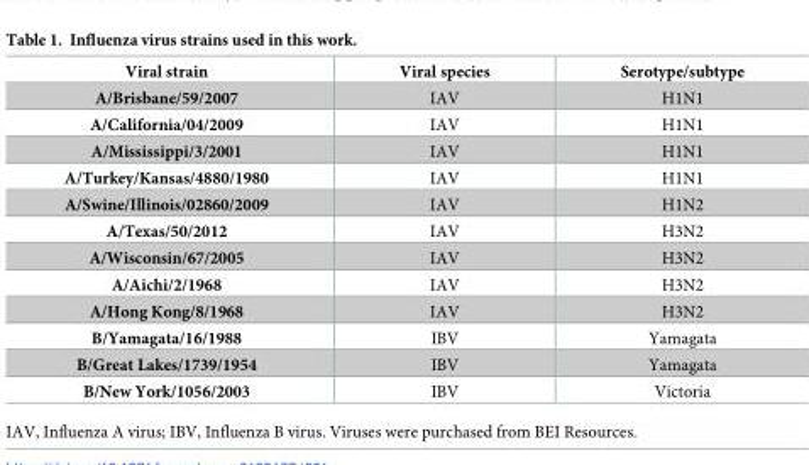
<table><thead><tr><td>Viral strain</td><td>Viral species</td><td>Serotype/subtype</td></tr></thead><tbody><tr><td>A/Brisbane/59/2007</td><td>IAV</td><td>H1N1</td></tr><tr><td>A/California/04/2009</td><td>IAV</td><td>H1N1</td></tr><tr><td>A/Mississippi/3/2001</td><td>IAV</td><td>H1N1</td></tr><tr><td>A/Turkey/Kansas/4880/1980</td><td>IAV</td><td>H1N1</td></tr><tr><td>A/Swine/Illinois/02860/2009</td><td>IAV</td><td>H1N2</td></tr><tr><td>A/Texas/50/2012</td><td>IAV</td><td>H3N2</td></tr><tr><td>A/Wisconsin/67/2005</td><td>IAV</td><td>H3N2</td></tr><tr><td>A/Aichi/2/1968</td><td>IAV</td><td>H3N2</td></tr><tr><td>A/Hong Kong/8/1968</td><td>IAV</td><td>H3N2</td></tr><tr><td>B/Yamagata/16/1988</td><td>IBV</td><td>Yamagata</td></tr><tr><td>B/Great Lakes/1739/1954</td><td>IBV</td><td>Yamagata</td></tr><tr><td>B/New York/1056/2003</td><td>IBV</td><td>Victoria</td></tr></tbody></table>